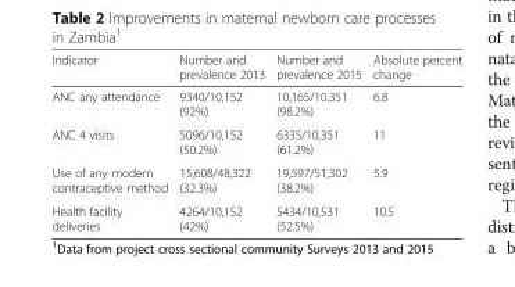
<table><thead><tr><td>Indicator</td><td>Number and prevalence 2013</td><td>Number and prevalence 2015</td><td>Absolute percent change</td></tr></thead><tbody><tr><td>ANC any attendance</td><td>9340/10,152 (92%)</td><td>10,165/10,351 (98.2%)</td><td>6.8</td></tr><tr><td>ANC 4 visits</td><td>5096/10,152 (50.2%)</td><td>6335/10,351 (61.2%)</td><td>11</td></tr><tr><td>Use of any modern contraceptive method</td><td>15,608/48,322 (32.3%)</td><td>19,597/51,302 (38.2%)</td><td>5.9</td></tr><tr><td>Health facility deliveries</td><td>4264/10,152 (42%)</td><td>5434/10,531 (52.5%)</td><td>10.5</td></tr></tbody></table>